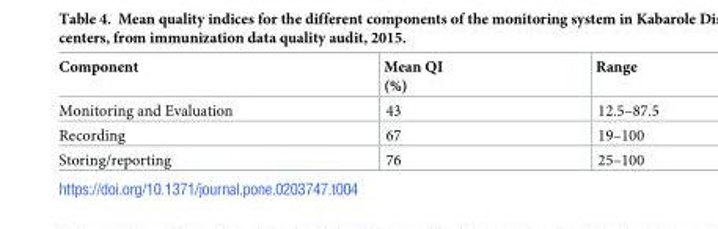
<table><thead><tr><td>Component</td><td>Mean QI (%)</td><td>Range</td></tr></thead><tbody><tr><td>Monitoring and Evaluation</td><td>43</td><td>12.5–87.5</td></tr><tr><td>Recording</td><td>67</td><td>19–100</td></tr><tr><td>Storing/reporting</td><td>76</td><td>25–100</td></tr></tbody></table>